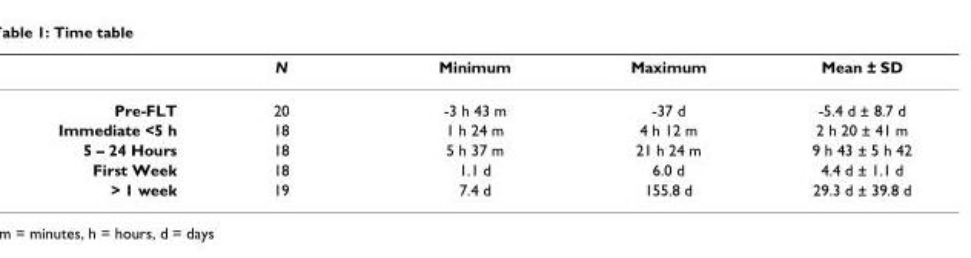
<table><thead><tr><td></td><td>N</td><td>Minimum</td><td>Maximum</td><td>Mean ± SD</td></tr></thead><tbody><tr><td>Pre-FLT</td><td>20</td><td>-3 h 43 m</td><td>-37 d</td><td>-5.4 d ± 8.7 d</td></tr><tr><td>Immediate &lt;5 h</td><td>18</td><td>1 h 24 m</td><td>4 h 12 m</td><td>2 h 20 ± 41 m</td></tr><tr><td>5 – 24 Hours</td><td>18</td><td>5 h 37 m</td><td>21 h 24 m</td><td>9 h 43 ± 5 h 42</td></tr><tr><td>First Week</td><td>18</td><td>1.1 d</td><td>6.0 d</td><td>4.4 d ± 1.1 d</td></tr><tr><td>&gt; 1 week</td><td>19</td><td>7.4 d</td><td>155.8 d</td><td>29.3 d ± 39.8 d</td></tr></tbody></table>